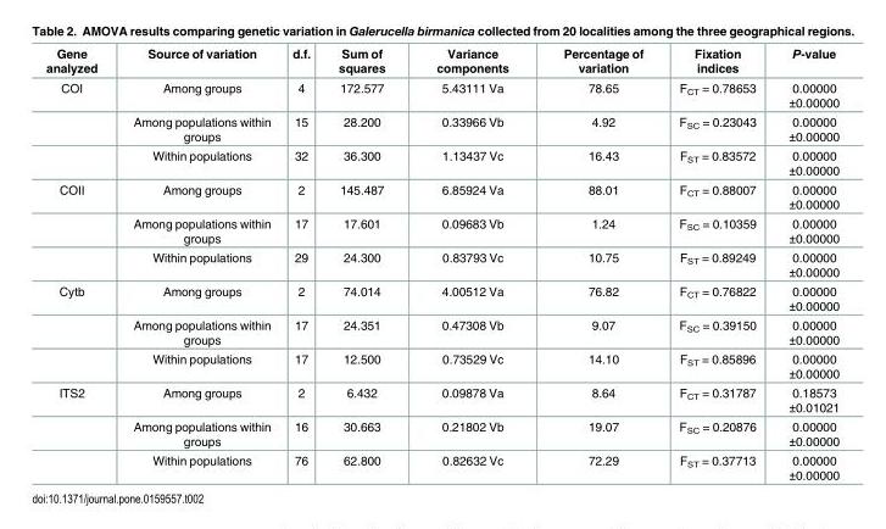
<table><thead><tr><td>Gene analyzed</td><td>Source of variation</td><td>d.f.</td><td>Sum of squares</td><td>Variance components</td><td>Percentage of variation</td><td>Fixation indices</td><td>P-value</td></tr></thead><tbody><tr><td rowspan="3">COI</td><td>Among groups</td><td>4</td><td>172.577</td><td>5.43111 Va</td><td>78.65</td><td>F<sub>CT</sub> = 0.78653</td><td>0.00000 ±0.00000</td></tr><tr><td>Among populations within groups</td><td>15</td><td>28.200</td><td>0.33966 Vb</td><td>4.92</td><td>F<sub>SC</sub> = 0.23043</td><td>0.00000 ±0.00000</td></tr><tr><td>Within populations</td><td>32</td><td>36.300</td><td>1.13437 Vc</td><td>16.43</td><td>F<sub>ST</sub> = 0.83572</td><td>0.00000 ±0.00000</td></tr><tr><td rowspan="3">COII</td><td>Among groups</td><td>2</td><td>145.487</td><td>6.85924 Va</td><td>88.01</td><td>F<sub>CT</sub> = 0.88007</td><td>0.00000 ±0.00000</td></tr><tr><td>Among populations within groups</td><td>17</td><td>17.601</td><td>0.09683 Vb</td><td>1.24</td><td>F<sub>SC</sub> = 0.10359</td><td>0.00000 ±0.00000</td></tr><tr><td>Within populations</td><td>29</td><td>24.300</td><td>0.83793 Vc</td><td>10.75</td><td>F<sub>ST</sub> = 0.89249</td><td>0.00000 ±0.00000</td></tr><tr><td rowspan="3">Cytb</td><td>Among groups</td><td>2</td><td>74.014</td><td>4.00512 Va</td><td>76.82</td><td>F<sub>CT</sub> = 0.76822</td><td>0.00000 ±0.00000</td></tr><tr><td>Among populations within groups</td><td>17</td><td>24.351</td><td>0.47308 Vb</td><td>9.07</td><td>F<sub>SC</sub> = 0.39150</td><td>0.00000 ±0.00000</td></tr><tr><td>Within populations</td><td>17</td><td>12.500</td><td>0.73529 Vc</td><td>14.10</td><td>F<sub>ST</sub> = 0.85896</td><td>0.00000 ±0.00000</td></tr><tr><td rowspan="3">ITS2</td><td>Among groups</td><td>2</td><td>6.432</td><td>0.09878 Va</td><td>8.64</td><td>F<sub>CT</sub> = 0.31787</td><td>0.18573 ±0.01021</td></tr><tr><td>Among populations within groups</td><td>16</td><td>30.663</td><td>0.21802 Vb</td><td>19.07</td><td>F<sub>SC</sub> = 0.20876</td><td>0.00000 ±0.00000</td></tr><tr><td>Within populations</td><td>76</td><td>62.800</td><td>0.82632 Vc</td><td>72.29</td><td>F<sub>ST</sub> = 0.37713</td><td>0.00000 ±0.00000</td></tr></tbody></table>